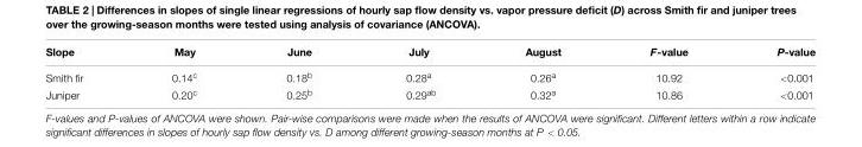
<table><thead><tr><td>Slope</td><td>May</td><td>June</td><td>July</td><td>August</td><td>F-value</td><td>P-value</td></tr></thead><tbody><tr><td>Smith fir</td><td>0.14<sup>c</sup></td><td>0.18<sup>b</sup></td><td>0.28<sup>a</sup></td><td>0.26<sup>a</sup></td><td>10.92</td><td>&lt;0.001</td></tr><tr><td>Juniper</td><td>0.20<sup>c</sup></td><td>0.25<sup>b</sup></td><td>0.29<sup>ab</sup></td><td>0.32<sup>a</sup></td><td>10.86</td><td>&lt;0.001</td></tr></tbody></table>